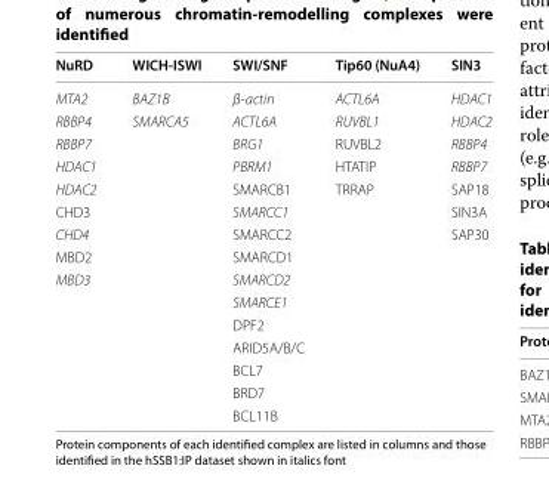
<table><thead><tr><td>NuRD</td><td>WICH‑ISWI</td><td>SWI/SNF</td><td>Tip60 (NuA4)</td><td>SIN3</td></tr></thead><tbody><tr><td>MTA2</td><td>BAZ1B</td><td>β-actin</td><td>ACTL6A</td><td>HDAC1</td></tr><tr><td>RBBP4</td><td>SMARCA5</td><td>ACTL6A</td><td>RUVBL1</td><td>HDAC2</td></tr><tr><td>RBBP7</td><td></td><td>BRG1</td><td>RUVBL2</td><td>RBBP4</td></tr><tr><td>HDAC1</td><td></td><td>PBRM1</td><td>HTATIP</td><td>RBBP7</td></tr><tr><td>HDAC2</td><td></td><td>SMARCB1</td><td>TRRAP</td><td>SAP18</td></tr><tr><td>CHD3</td><td></td><td>SMARCC1</td><td></td><td>SIN3A</td></tr><tr><td>CHD4</td><td></td><td>SMARCC2</td><td></td><td>SAP30</td></tr><tr><td>MBD2</td><td></td><td>SMARCD1</td><td></td><td></td></tr><tr><td rowspan="7">MBD3</td><td></td><td>SMARCD2</td><td></td><td></td></tr><tr><td></td><td>SMARCE1</td><td></td><td></td></tr><tr><td></td><td>DPF2</td><td></td><td></td></tr><tr><td></td><td>ARID5A/B/C</td><td></td><td></td></tr><tr><td></td><td>BCL7</td><td></td><td></td></tr><tr><td></td><td>BRD7</td><td></td><td></td></tr><tr><td></td><td>BCL11B</td><td></td><td></td></tr></tbody></table>